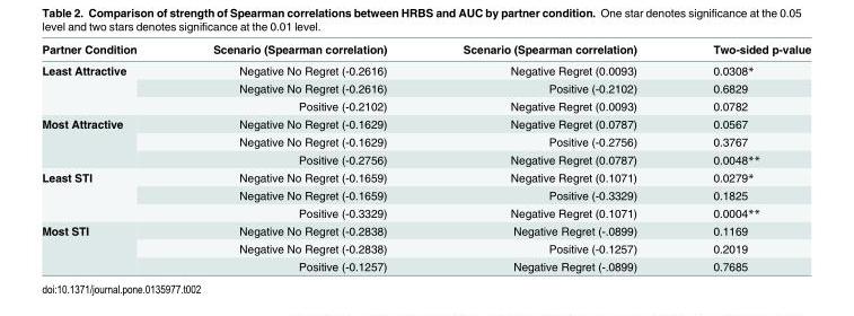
<table><thead><tr><td>Partner Condition</td><td>Scenario (Spearman correlation)</td><td>Scenario (Spearman correlation)</td><td>Two-sided p-value</td></tr></thead><tbody><tr><td rowspan="3">Least Attractive</td><td>Negative No Regret (-0.2616)</td><td>Negative Regret (0.0093)</td><td>0.0308*</td></tr><tr><td>Negative No Regret (-0.2616)</td><td>Positive (-0.2102)</td><td>0.6829</td></tr><tr><td>Positive (-0.2102)</td><td>Negative Regret (0.0093)</td><td>0.0782</td></tr><tr><td rowspan="3">Most Attractive</td><td>Negative No Regret (-0.1629)</td><td>Negative Regret (0.0787)</td><td>0.0567</td></tr><tr><td>Negative No Regret (-0.1629)</td><td>Positive (-0.2756)</td><td>0.3767</td></tr><tr><td>Positive (-0.2756)</td><td>Negative Regret (0.0787)</td><td>0.0048**</td></tr><tr><td rowspan="3">Least STI</td><td>Negative No Regret (-0.1659)</td><td>Negative Regret (0.1071)</td><td>0.0279*</td></tr><tr><td>Negative No Regret (-0.1659)</td><td>Positive (-0.3329)</td><td>0.1825</td></tr><tr><td>Positive (-0.3329)</td><td>Negative Regret (0.1071)</td><td>0.0004**</td></tr><tr><td rowspan="3">Most STI</td><td>Negative No Regret (-0.2838)</td><td>Negative Regret (-.0899)</td><td>0.1169</td></tr><tr><td>Negative No Regret (-0.2838)</td><td>Positive (-0.1257)</td><td>0.2019</td></tr><tr><td>Positive (-0.1257)</td><td>Negative Regret (-.0899)</td><td>0.7685</td></tr></tbody></table>